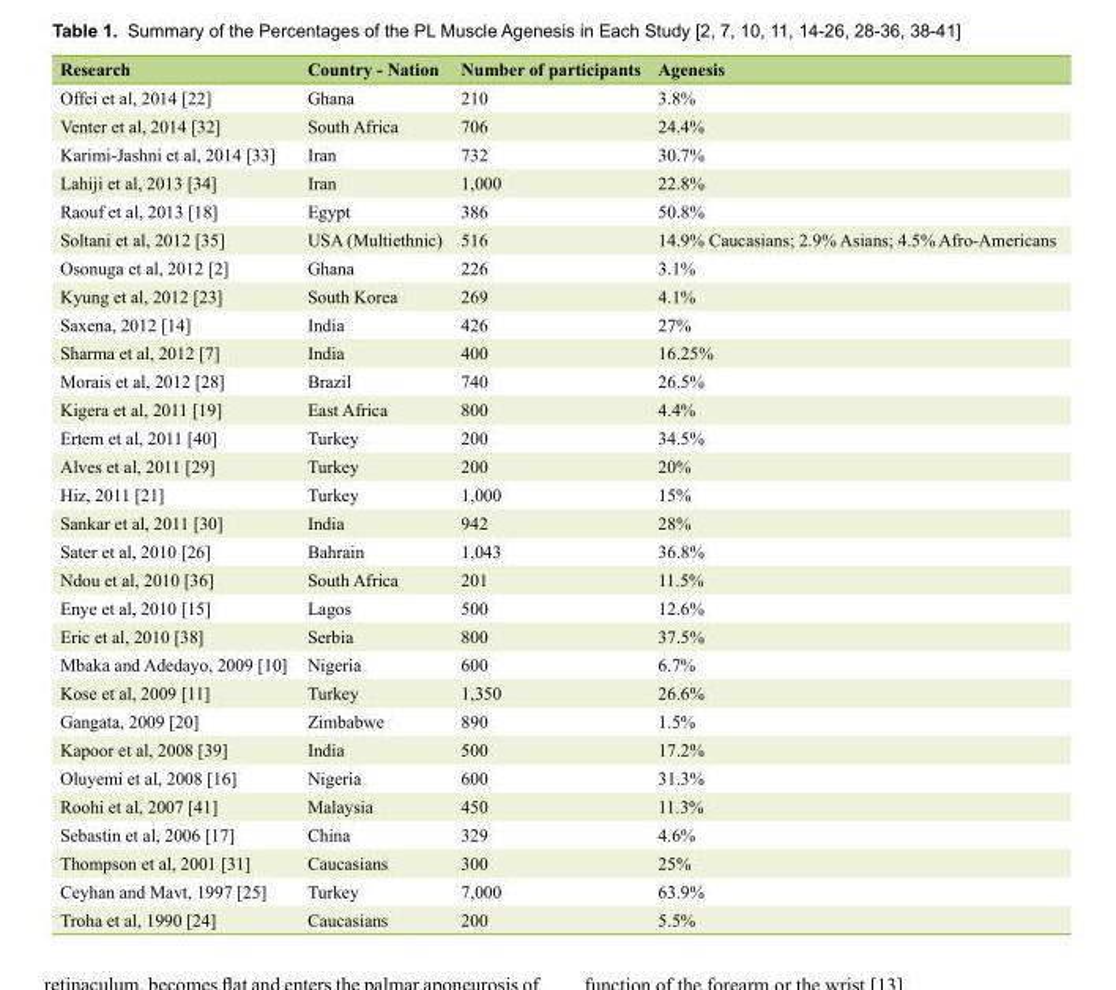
<table><thead><tr><td>Research</td><td>Country - Nation</td><td>Number of participants</td><td>Agenesis</td></tr></thead><tbody><tr><td>Offei et al, 2014 [22]</td><td>Ghana</td><td>210</td><td>3.8%</td></tr><tr><td>Venter et al, 2014 [32]</td><td>South Africa</td><td>706</td><td>24.4%</td></tr><tr><td>Karimi-Jashni et al, 2014 [33]</td><td>Iran</td><td>732</td><td>30.7%</td></tr><tr><td>Lahiji et al, 2013 [34]</td><td>Iran</td><td>1,000</td><td>22.8%</td></tr><tr><td>Raouf et al, 2013 [18]</td><td>Egypt</td><td>386</td><td>50.8%</td></tr><tr><td>Soltani et al, 2012 [35]</td><td>USA (Multiethnic)</td><td>516</td><td>14.9% Caucasians; 2.9% Asians; 4.5% Afro-Americans</td></tr><tr><td>Osonuga et al, 2012 [2]</td><td>Ghana</td><td>226</td><td>3.1%</td></tr><tr><td>Kyung et al, 2012 [23]</td><td>South Korea</td><td>269</td><td>4.1%</td></tr><tr><td>Saxena, 2012 [14]</td><td>India</td><td>426</td><td>27%</td></tr><tr><td>Sharma et al, 2012 [7]</td><td>India</td><td>400</td><td>16.25%</td></tr><tr><td>Morais et al, 2012 [28]</td><td>Brazil</td><td>740</td><td>26.5%</td></tr><tr><td>Kigera et al, 2011 [19]</td><td>East Africa</td><td>800</td><td>4.4%</td></tr><tr><td>Ertem et al, 2011 [40]</td><td>Turkey</td><td>200</td><td>34.5%</td></tr><tr><td>Alves et al, 2011 [29]</td><td>Turkey</td><td>200</td><td>20%</td></tr><tr><td>Hiz, 2011 [21]</td><td>Turkey</td><td>1,000</td><td>15%</td></tr><tr><td>Sankar et al, 2011 [30]</td><td>India</td><td>942</td><td>28%</td></tr><tr><td>Sater et al, 2010 [26]</td><td>Bahrain</td><td>1,043</td><td>36.8%</td></tr><tr><td>Ndou et al, 2010 [36]</td><td>South Africa</td><td>201</td><td>11.5%</td></tr><tr><td>Enye et al, 2010 [15]</td><td>Lagos</td><td>500</td><td>12.6%</td></tr><tr><td>Eric et al, 2010 [38]</td><td>Serbia</td><td>800</td><td>37.5%</td></tr><tr><td>Mbaka and Adedayo, 2009 [10]</td><td>Nigeria</td><td>600</td><td>6.7%</td></tr><tr><td>Kose et al, 2009 [11]</td><td>Turkey</td><td>1,350</td><td>26.6%</td></tr><tr><td>Gangata, 2009 [20]</td><td>Zimbabwe</td><td>890</td><td>1.5%</td></tr><tr><td>Kapoor et al, 2008 [39]</td><td>India</td><td>500</td><td>17.2%</td></tr><tr><td>Oluyemi et al, 2008 [16]</td><td>Nigeria</td><td>600</td><td>31.3%</td></tr><tr><td>Roohi et al, 2007 [41]</td><td>Malaysia</td><td>450</td><td>11.3%</td></tr><tr><td>Sebastin et al, 2006 [17]</td><td>China</td><td>329</td><td>4.6%</td></tr><tr><td>Thompson et al, 2001 [31]</td><td>Caucasians</td><td>300</td><td>25%</td></tr><tr><td>Ceyhan and Mavt, 1997 [25]</td><td>Turkey</td><td>7,000</td><td>63.9%</td></tr><tr><td>Troha et al, 1990 [24]</td><td>Caucasians</td><td>200</td><td>5.5%</td></tr></tbody></table>